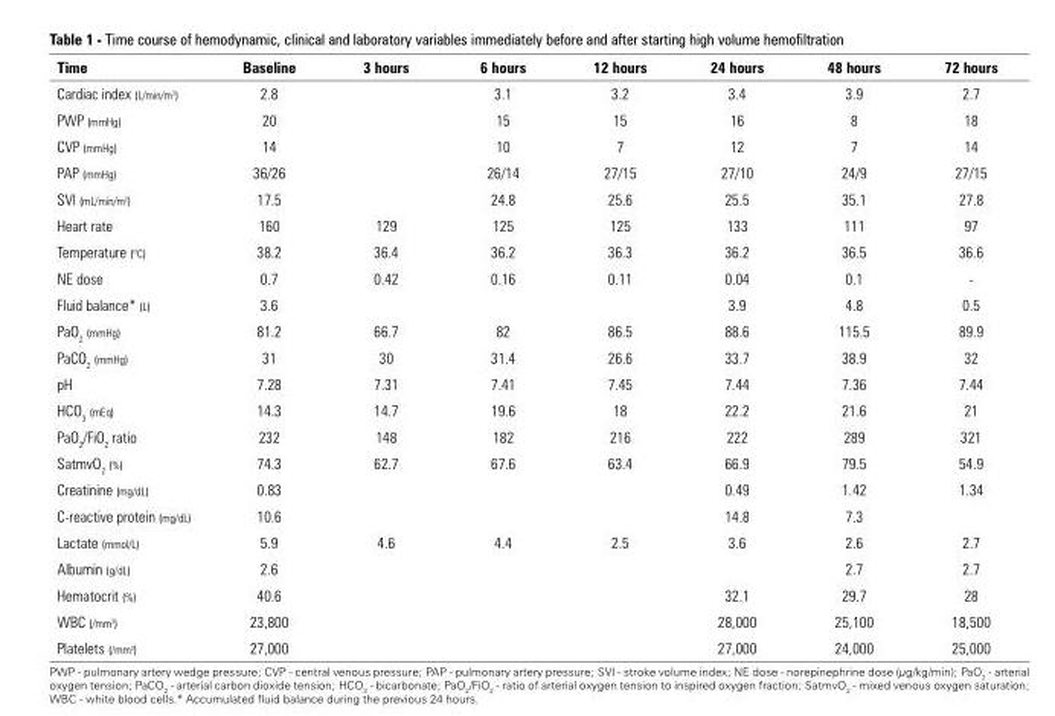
<table><thead><tr><td>Time</td><td>Baseline</td><td>3 hours</td><td>6 hours</td><td>12 hours</td><td>24 hours</td><td>48 hours</td><td>72 hours</td></tr></thead><tbody><tr><td>Cardiac index (L/min/m<sup>2</sup>)</td><td>2.8</td><td></td><td>3.1</td><td>3.2</td><td>3.4</td><td>3.9</td><td>2.7</td></tr><tr><td>PWP (mmHg)</td><td>20</td><td></td><td>15</td><td>15</td><td>16</td><td>8</td><td>18</td></tr><tr><td>CVP (mmHg)</td><td>14</td><td></td><td>10</td><td>7</td><td>12</td><td>7</td><td>14</td></tr><tr><td>PAP (mmHg)</td><td>36/26</td><td></td><td>26/14</td><td>27/15</td><td>27/10</td><td>24/9</td><td>27/15</td></tr><tr><td>SVI (mL/min/m<sup>2</sup>)</td><td>17.5</td><td></td><td>24.8</td><td>25.6</td><td>25.5</td><td>35.1</td><td>27.8</td></tr><tr><td>Heart rate</td><td>160</td><td>129</td><td>125</td><td>125</td><td>133</td><td>111</td><td>97</td></tr><tr><td>Temperature (ºC)</td><td>38.2</td><td>36.4</td><td>36.2</td><td>36.3</td><td>36.2</td><td>36.5</td><td>36.6</td></tr><tr><td>NE dose</td><td>0.7</td><td>0.42</td><td>0.16</td><td>0.11</td><td>0.04</td><td>0.1</td><td>-</td></tr><tr><td>Fluid balance* (L)</td><td>3.6</td><td></td><td></td><td></td><td>3.9</td><td>4.8</td><td>0.5</td></tr><tr><td>PaO<sub>2</sub> (mmHg)</td><td>81.2</td><td>66.7</td><td>82</td><td>86.5</td><td>88.6</td><td>115.5</td><td>89.9</td></tr><tr><td>PaCO<sub>2</sub> (mmHg)</td><td>31</td><td>30</td><td>31.4</td><td>26.6</td><td>33.7</td><td>38.9</td><td>32</td></tr><tr><td>pH</td><td>7.28</td><td>7.31</td><td>7.41</td><td>7.45</td><td>7.44</td><td>7.36</td><td>7.44</td></tr><tr><td>HCO<sub>3</sub> (mEq)</td><td>14.3</td><td>14.7</td><td>19.6</td><td>18</td><td>22.2</td><td>21.6</td><td>21</td></tr><tr><td>PaO<sub>2</sub>/FiO<sub>2</sub> ratio</td><td>232</td><td>148</td><td>182</td><td>216</td><td>222</td><td>289</td><td>321</td></tr><tr><td>SatmvO<sub>2</sub> (%)</td><td>74.3</td><td>62.7</td><td>67.6</td><td>63.4</td><td>66.9</td><td>79.5</td><td>54.9</td></tr><tr><td>Creatinine (mg/dL)</td><td>0.83</td><td></td><td></td><td></td><td>0.49</td><td>1.42</td><td>1.34</td></tr><tr><td>C-reactive protein (mg/dL)</td><td>10.6</td><td></td><td></td><td></td><td>14.8</td><td>7.3</td><td></td></tr><tr><td>Lactate (mmol/L)</td><td>5.9</td><td>4.6</td><td>4.4</td><td>2.5</td><td>3.6</td><td>2.6</td><td>2.7</td></tr><tr><td>Albumin (g/dL)</td><td>2.6</td><td></td><td></td><td></td><td></td><td>2.7</td><td>2.7</td></tr><tr><td>Hematocrit (%)</td><td>40.6</td><td></td><td></td><td></td><td>32.1</td><td>29.7</td><td>28</td></tr><tr><td>WBC (/mm<sup>3</sup>)</td><td>23,800</td><td></td><td></td><td></td><td>28,000</td><td>25,100</td><td>18,500</td></tr><tr><td>Platelets (/mm<sup>3</sup>)</td><td>27,000</td><td></td><td></td><td></td><td>27,000</td><td>24,000</td><td>25,000</td></tr></tbody></table>